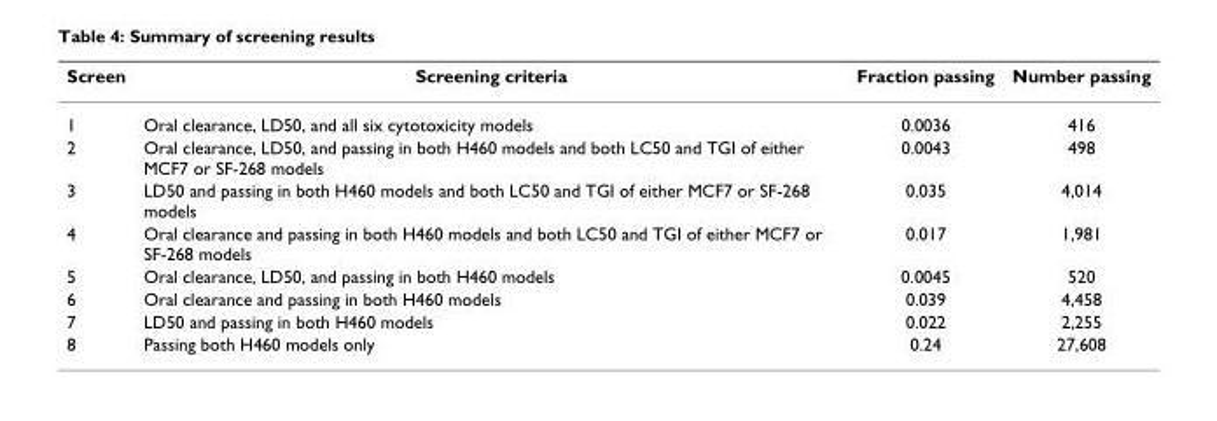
<table><thead><tr><td>Screen</td><td>Screening criteria</td><td>Fraction passing</td><td>Number passing</td></tr></thead><tbody><tr><td>1</td><td>Oral clearance, LD50, and all six cytotoxicity models</td><td>0.0036</td><td>416</td></tr><tr><td>2</td><td>Oral clearance, LD50, and passing in both H460 models and both LC50 and TGI of either MCF7 or SF-268 models</td><td>0.0043</td><td>498</td></tr><tr><td>3</td><td>LD50 and passing in both H460 models and both LC50 and TGI of either MCF7 or SF-268 models</td><td>0.035</td><td>4,014</td></tr><tr><td>4</td><td>Oral clearance and passing in both H460 models and both LC50 and TGI of either MCF7 or SF-268 models</td><td>0.017</td><td>1,981</td></tr><tr><td>5</td><td>Oral clearance, LD50, and passing in both H460 models</td><td>0.0045</td><td>520</td></tr><tr><td>6</td><td>Oral clearance and passing in both H460 models</td><td>0.039</td><td>4,458</td></tr><tr><td>7</td><td>LD50 and passing in both H460 models</td><td>0.022</td><td>2,255</td></tr><tr><td>8</td><td>Passing both H460 models only</td><td>0.24</td><td>27,608</td></tr></tbody></table>